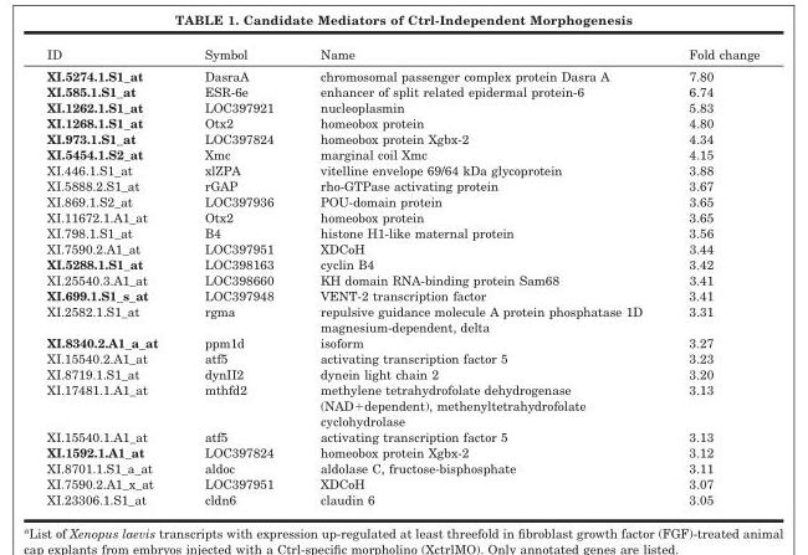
<table><thead><tr><td>ID</td><td>Symbol</td><td>Name</td><td>Fold change</td></tr></thead><tbody><tr><td>XI.5274.1.S1_at</td><td>DasraA</td><td>chromosomal passenger complex protein Dasra A</td><td>7.80</td></tr><tr><td>XI.585.1.S1_at</td><td>ESR-6e</td><td>enhancer of split related epidermal protein-6</td><td>6.74</td></tr><tr><td>XI.1262.1.S1_at</td><td>LOC397921</td><td>nucleoplasmin</td><td>5.83</td></tr><tr><td>XI.1268.1.S1_at</td><td>Otx2</td><td>homeobox protein</td><td>4.80</td></tr><tr><td>XI.973.1.S1_at</td><td>LOC397824</td><td>homeobox protein Xgbx-2</td><td>4.34</td></tr><tr><td>XI.5454.1.S2_at</td><td>Xmc</td><td>marginal coil Xmc</td><td>4.15</td></tr><tr><td>XI.446.1.S1_at</td><td>xlZPA</td><td>vitelline envelope 69/64 kDa glycoprotein</td><td>3.88</td></tr><tr><td>XI.5888.2.S1_at</td><td>rGAP</td><td>rho-GTPase activating protein</td><td>3.67</td></tr><tr><td>XI.869.1.S2_at</td><td>LOC397936</td><td>POU-domain protein</td><td>3.65</td></tr><tr><td>XI.11672.1.A1_at</td><td>Otx2</td><td>homeobox protein</td><td>3.65</td></tr><tr><td>XI.798.1.S1_at</td><td>B4</td><td>histone H1-like maternal protein</td><td>3.56</td></tr><tr><td>XI.7590.2.A1_at</td><td>LOC397951</td><td>XDCoH</td><td>3.44</td></tr><tr><td>XI.5288.1.S1_at</td><td>LOC398163</td><td>cyclin B4</td><td>3.42</td></tr><tr><td>XI.25540.3.A1_at</td><td>LOC398660</td><td>KH domain RNA-binding protein Sam68</td><td>3.41</td></tr><tr><td>XI.699.1.S1_s_at</td><td>LOC397948</td><td>VENT-2 transcription factor</td><td>3.41</td></tr><tr><td>XI.2582.1.S1_at</td><td>rgma</td><td>repulsive guidance molecule A protein phosphatase 1D magnesium-dependent, delta</td><td>3.31</td></tr><tr><td>XI.8340.2.A1_a_at</td><td>ppm1d</td><td>isoform</td><td>3.27</td></tr><tr><td>XI.15540.2.A1_at</td><td>atf5</td><td>activating transcription factor 5</td><td>3.23</td></tr><tr><td>XI.8719.1.S1_at</td><td>dynII2</td><td>dynein light chain 2</td><td>3.20</td></tr><tr><td>XI.17481.1.A1_at</td><td>mthfd2</td><td>methylene tetrahydrofolate dehydrogenase (NAD+dependent), methenyltetrahydrofolate cyclohydrolase</td><td>3.13</td></tr><tr><td>XI.15540.1.A1_at</td><td>atf5</td><td>activating transcription factor 5</td><td>3.13</td></tr><tr><td>XI.1592.1.A1_at</td><td>LOC397824</td><td>homeobox protein Xgbx-2</td><td>3.12</td></tr><tr><td>XI.8701.1.S1_a_at</td><td>aldoc</td><td>aldolase C, fructose-bisphosphate</td><td>3.11</td></tr><tr><td>XI.7590.2.A1_x_at</td><td>LOC397951</td><td>XDCoH</td><td>3.07</td></tr><tr><td>XI.23306.1.S1_at</td><td>cldn6</td><td>claudin 6</td><td>3.05</td></tr></tbody></table>